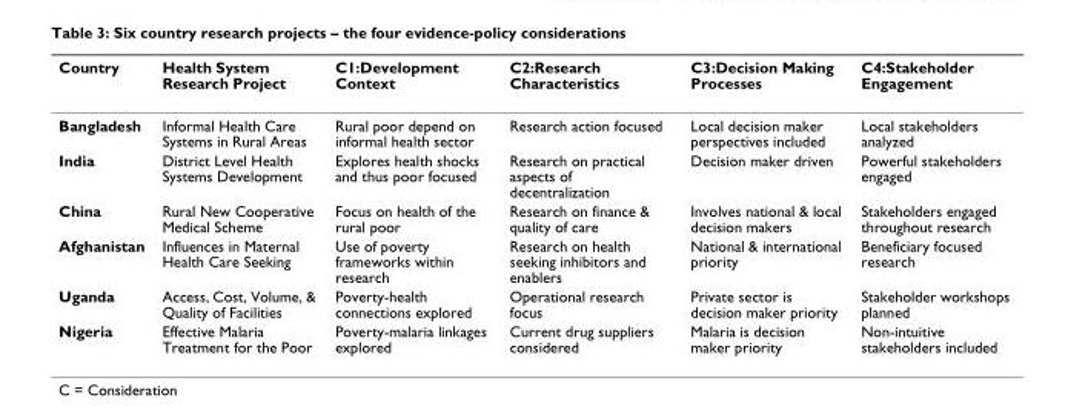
<table><thead><tr><td>Country</td><td>Health System Research Project</td><td>C1:Development Context</td><td>C2:Research Characteristics</td><td>C3:Decision Making Processes</td><td>C4:Stakeholder Engagement</td></tr></thead><tbody><tr><td>Bangladesh</td><td>Informal Health Care Systems in Rural Areas</td><td>Rural poor depend on informal health sector</td><td>Research action focused</td><td>Local decision maker perspectives included</td><td>Local stakeholders analyzed</td></tr><tr><td>India</td><td>District Level Health Systems Development</td><td>Explores health shocks and thus poor focused</td><td>Research on practical aspects of decentralization</td><td>Decision maker driven</td><td>Powerful stakeholders engaged</td></tr><tr><td>China</td><td>Rural New Cooperative Medical Scheme</td><td>Focus on health of the rural poor</td><td>Research on finance &amp; quality of care</td><td>Involves national &amp; local decision makers</td><td>Stakeholders engaged throughout research</td></tr><tr><td>Afghanistan</td><td>Influences in Maternal Health Care Seeking</td><td>Use of poverty frameworks within research</td><td>Research on health seeking inhibitors and enablers</td><td>National &amp; international priority</td><td>Beneficiary focused research</td></tr><tr><td>Uganda</td><td>Access, Cost, Volume, &amp; Quality of Facilities</td><td>Poverty-health connections explored</td><td>Operational research focus</td><td>Private sector is decision maker priority</td><td>Stakeholder workshops planned</td></tr><tr><td>Nigeria</td><td>Effective Malaria Treatment for the Poor</td><td>Poverty-malaria linkages explored</td><td>Current drug suppliers considered</td><td>Malaria is decision maker priority</td><td>Non-intuitive stakeholders included</td></tr></tbody></table>